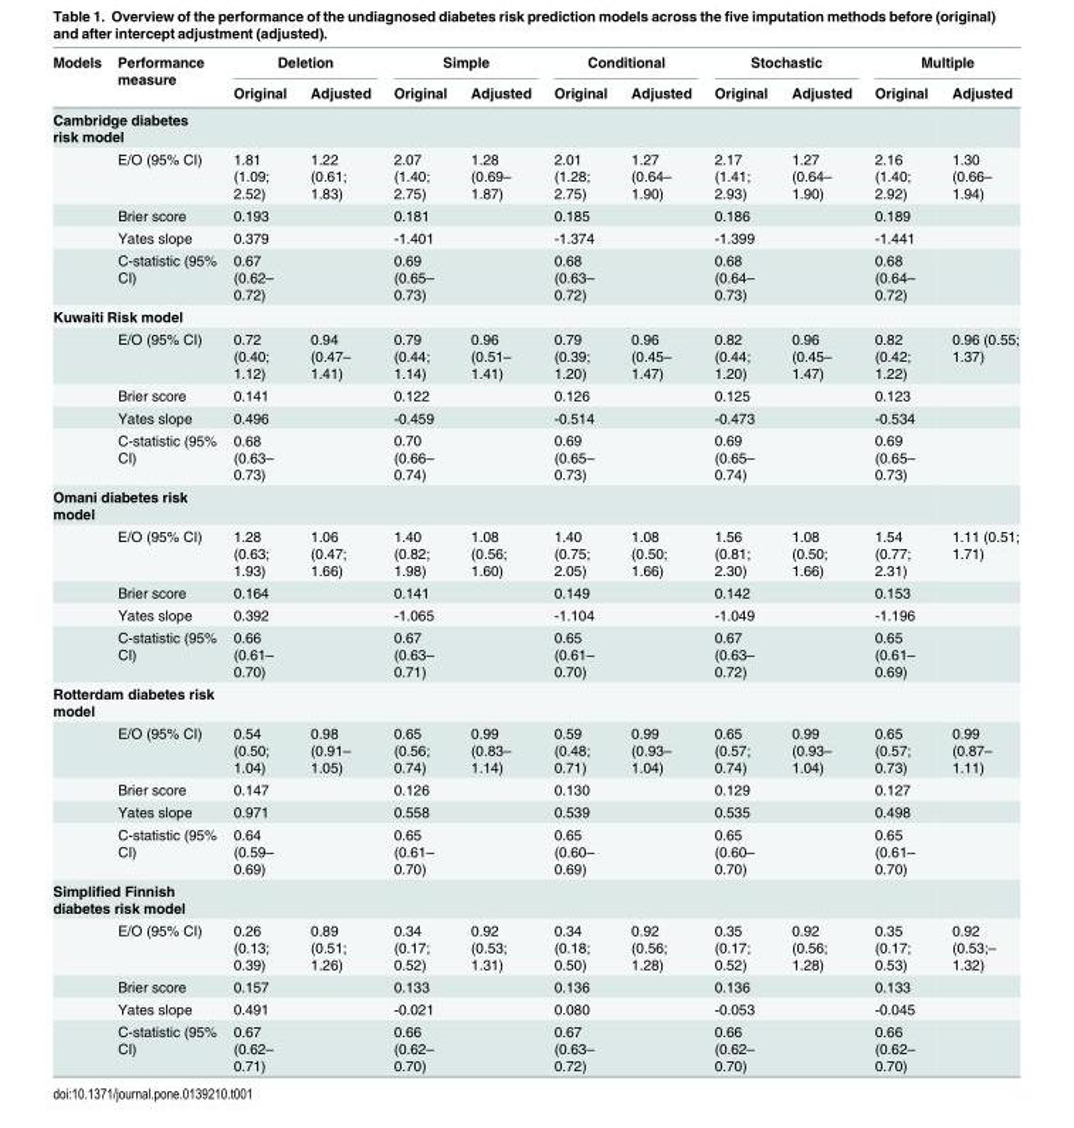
<table><thead><tr><td rowspan="2">Models</td><td rowspan="2">Performance measure</td><td colspan="2">Deletion</td><td colspan="2">Simple</td><td colspan="2">Conditional</td><td colspan="2">Stochastic</td><td colspan="2">Multiple</td></tr><tr><td>Original</td><td>Adjusted</td><td>Original</td><td>Adjusted</td><td>Original</td><td>Adjusted</td><td>Original</td><td>Adjusted</td><td>Original</td><td>Adjusted</td></tr></thead><tbody><tr><td colspan="12">Cambridge diabetes risk model</td></tr><tr><td></td><td>E/O (95% CI)</td><td>1.81 (1.09; 2.52)</td><td>1.22 (0.61; 1.83)</td><td>2.07 (1.40; 2.75)</td><td>1.28 (0.69– 1.87)</td><td>2.01 (1.28; 2.75)</td><td>1.27 (0.64– 1.90)</td><td>2.17 (1.41; 2.93)</td><td>1.27 (0.64– 1.90)</td><td>2.16 (1.40; 2.92)</td><td>1.30 (0.66– 1.94)</td></tr><tr><td></td><td>Brier score</td><td>0.193</td><td></td><td>0.181</td><td></td><td>0.185</td><td></td><td>0.186</td><td></td><td>0.189</td><td></td></tr><tr><td></td><td>Yates slope</td><td>0.379</td><td></td><td>-1.401</td><td></td><td>-1.374</td><td></td><td>-1.399</td><td></td><td>-1.441</td><td></td></tr><tr><td></td><td>C-statistic (95% CI)</td><td>0.67 (0.62– 0.72)</td><td></td><td>0.69 (0.65– 0.73)</td><td></td><td>0.68 (0.63– 0.72)</td><td></td><td>0.68 (0.64– 0.73)</td><td></td><td>0.68 (0.64– 0.72)</td><td></td></tr><tr><td colspan="12">Kuwaiti Risk model</td></tr><tr><td></td><td>E/O (95% CI)</td><td>0.72 (0.40; 1.12)</td><td>0.94 (0.47– 1.41)</td><td>0.79 (0.44; 1.14)</td><td>0.96 (0.51– 1.41)</td><td>0.79 (0.39; 1.20)</td><td>0.96 (0.45– 1.47)</td><td>0.82 (0.44; 1.20)</td><td>0.96 (0.45– 1.47)</td><td>0.82 (0.42; 1.22)</td><td>0.96 (0.55; 1.37)</td></tr><tr><td></td><td>Brier score</td><td>0.141</td><td></td><td>0.122</td><td></td><td>0.126</td><td></td><td>0.125</td><td></td><td>0.123</td><td></td></tr><tr><td></td><td>Yates slope</td><td>0.496</td><td></td><td>-0.459</td><td></td><td>-0.514</td><td></td><td>-0.473</td><td></td><td>-0.534</td><td></td></tr><tr><td></td><td>C-statistic (95% CI)</td><td>0.68 (0.63– 0.73)</td><td></td><td>0.70 (0.66– 0.74)</td><td></td><td>0.69 (0.65– 0.73)</td><td></td><td>0.69 (0.65– 0.74)</td><td></td><td>0.69 (0.65– 0.73)</td><td></td></tr><tr><td colspan="12">Omani diabetes risk model</td></tr><tr><td></td><td>E/O (95% CI)</td><td>1.28 (0.63; 1.93)</td><td>1.06 (0.47; 1.66)</td><td>1.40 (0.82; 1.98)</td><td>1.08 (0.56; 1.60)</td><td>1.40 (0.75; 2.05)</td><td>1.08 (0.50; 1.66)</td><td>1.56 (0.81; 2.30)</td><td>1.08 (0.50; 1.66)</td><td>1.54 (0.77; 2.31)</td><td>1.11 (0.51; 1.71)</td></tr><tr><td></td><td>Brier score</td><td>0.164</td><td></td><td>0.141</td><td></td><td>0.149</td><td></td><td>0.142</td><td></td><td>0.153</td><td></td></tr><tr><td></td><td>Yates slope</td><td>0.392</td><td></td><td>-1.065</td><td></td><td>-1.104</td><td></td><td>-1.049</td><td></td><td>-1.196</td><td></td></tr><tr><td></td><td>C-statistic (95% CI)</td><td>0.66 (0.61– 0.70)</td><td></td><td>0.67 (0.63– 0.71)</td><td></td><td>0.65 (0.61– 0.70)</td><td></td><td>0.67 (0.63– 0.72)</td><td></td><td>0.65 (0.61– 0.69)</td><td></td></tr><tr><td colspan="12">Rotterdam diabetes risk model</td></tr><tr><td></td><td>E/O (95% CI)</td><td>0.54 (0.50; 1.04)</td><td>0.98 (0.91– 1.05)</td><td>0.65 (0.56; 0.74)</td><td>0.99 (0.83– 1.14)</td><td>0.59 (0.48; 0.71)</td><td>0.99 (0.93– 1.04)</td><td>0.65 (0.57; 0.74)</td><td>0.99 (0.93– 1.04)</td><td>0.65 (0.57; 0.73)</td><td>0.99 (0.87– 1.11)</td></tr><tr><td></td><td>Brier score</td><td>0.147</td><td></td><td>0.126</td><td></td><td>0.130</td><td></td><td>0.129</td><td></td><td>0.127</td><td></td></tr><tr><td></td><td>Yates slope</td><td>0.971</td><td></td><td>0.558</td><td></td><td>0.539</td><td></td><td>0.535</td><td></td><td>0.498</td><td></td></tr><tr><td></td><td>C-statistic (95% CI)</td><td>0.64 (0.59– 0.69)</td><td></td><td>0.65 (0.61– 0.70)</td><td></td><td>0.65 (0.60– 0.69)</td><td></td><td>0.65 (0.60– 0.70)</td><td></td><td>0.65 (0.61– 0.70)</td><td></td></tr><tr><td colspan="12">Simplified Finnish diabetes risk model</td></tr><tr><td></td><td>E/O (95% CI)</td><td>0.26 (0.13; 0.39)</td><td>0.89 (0.51; 1.26)</td><td>0.34 (0.17; 0.52)</td><td>0.92 (0.53; 1.31)</td><td>0.34 (0.18; 0.50)</td><td>0.92 (0.56; 1.28)</td><td>0.35 (0.17; 0.52)</td><td>0.92 (0.56; 1.28)</td><td>0.35 (0.17; 0.53)</td><td>0.92 (0.53;– 1.32)</td></tr><tr><td></td><td>Brier score</td><td>0.157</td><td></td><td>0.133</td><td></td><td>0.136</td><td></td><td>0.136</td><td></td><td>0.133</td><td></td></tr><tr><td></td><td>Yates slope</td><td>0.491</td><td></td><td>-0.021</td><td></td><td>0.080</td><td></td><td>-0.053</td><td></td><td>-0.045</td><td></td></tr><tr><td></td><td>C-statistic (95% CI)</td><td>0.67 (0.62– 0.71)</td><td></td><td>0.66 (0.62– 0.70)</td><td></td><td>0.67 (0.63– 0.72)</td><td></td><td>0.66 (0.62– 0.70)</td><td></td><td>0.66 (0.62– 0.70)</td><td></td></tr></tbody></table>